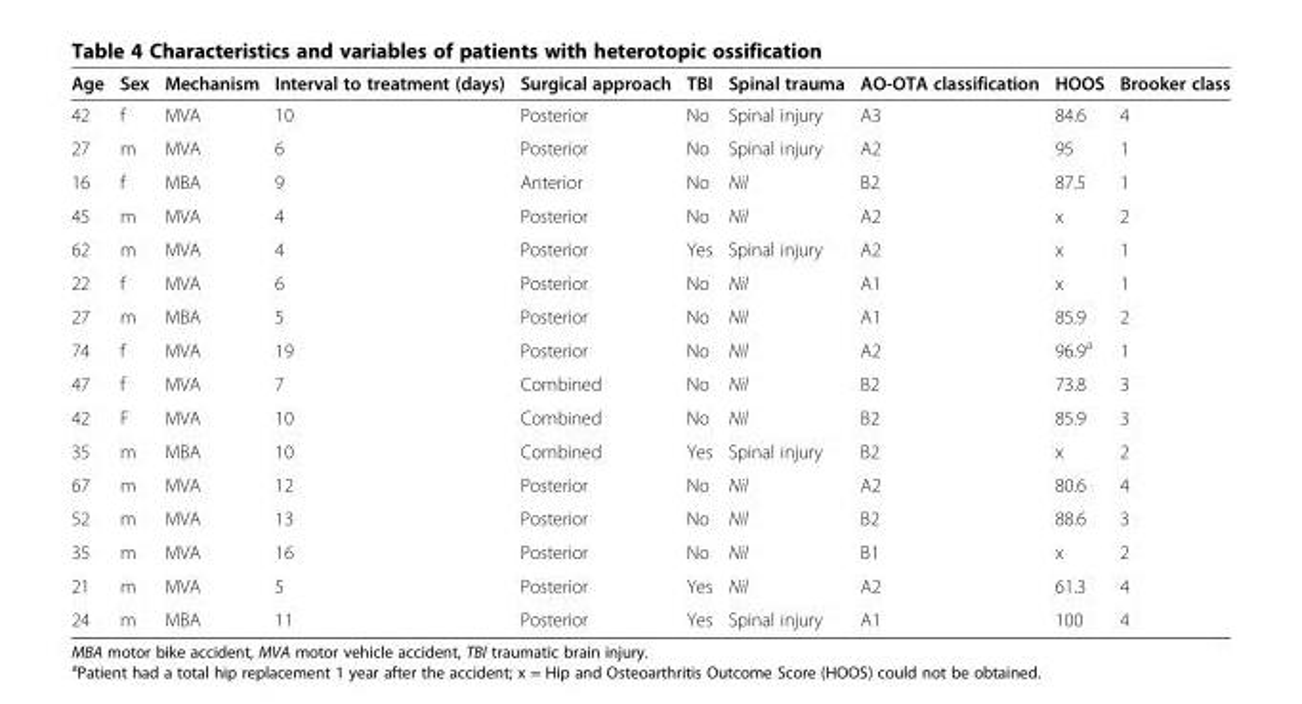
<table><thead><tr><td>Age</td><td>Sex</td><td>Mechanism</td><td>Interval to treatment (days)</td><td>Surgical approach</td><td>TBI</td><td>Spinal trauma</td><td>AO-OTA classification</td><td>HOOS</td><td>Brooker class</td></tr></thead><tbody><tr><td>42</td><td>f</td><td>MVA</td><td>10</td><td>Posterior</td><td>No</td><td>Spinal injury</td><td>A3</td><td>84.6</td><td>4</td></tr><tr><td>27</td><td>m</td><td>MVA</td><td>6</td><td>Posterior</td><td>No</td><td>Spinal injury</td><td>A2</td><td>95</td><td>1</td></tr><tr><td>16</td><td>f</td><td>MBA</td><td>9</td><td>Anterior</td><td>No</td><td>Nil</td><td>B2</td><td>87.5</td><td>1</td></tr><tr><td>45</td><td>m</td><td>MVA</td><td>4</td><td>Posterior</td><td>No</td><td>Nil</td><td>A2</td><td>x</td><td>2</td></tr><tr><td>62</td><td>m</td><td>MVA</td><td>4</td><td>Posterior</td><td>Yes</td><td>Spinal injury</td><td>A2</td><td>x</td><td>1</td></tr><tr><td>22</td><td>f</td><td>MVA</td><td>6</td><td>Posterior</td><td>No</td><td>Nil</td><td>A1</td><td>x</td><td>1</td></tr><tr><td>27</td><td>m</td><td>MBA</td><td>5</td><td>Posterior</td><td>No</td><td>Nil</td><td>A1</td><td>85.9</td><td>2</td></tr><tr><td>74</td><td>f</td><td>MVA</td><td>19</td><td>Posterior</td><td>No</td><td>Nil</td><td>A2</td><td>96.9<sup>a</sup></td><td>1</td></tr><tr><td>47</td><td>f</td><td>MVA</td><td>7</td><td>Combined</td><td>No</td><td>Nil</td><td>B2</td><td>73.8</td><td>3</td></tr><tr><td>42</td><td>F</td><td>MVA</td><td>10</td><td>Combined</td><td>No</td><td>Nil</td><td>B2</td><td>85.9</td><td>3</td></tr><tr><td>35</td><td>m</td><td>MBA</td><td>10</td><td>Combined</td><td>Yes</td><td>Spinal injury</td><td>B2</td><td>x</td><td>2</td></tr><tr><td>67</td><td>m</td><td>MVA</td><td>12</td><td>Posterior</td><td>No</td><td>Nil</td><td>A2</td><td>80.6</td><td>4</td></tr><tr><td>52</td><td>m</td><td>MVA</td><td>13</td><td>Posterior</td><td>No</td><td>Nil</td><td>B2</td><td>88.6</td><td>3</td></tr><tr><td>35</td><td>m</td><td>MVA</td><td>16</td><td>Posterior</td><td>No</td><td>Nil</td><td>B1</td><td>x</td><td>2</td></tr><tr><td>21</td><td>m</td><td>MVA</td><td>5</td><td>Posterior</td><td>Yes</td><td>Nil</td><td>A2</td><td>61.3</td><td>4</td></tr><tr><td>24</td><td>m</td><td>MBA</td><td>11</td><td>Posterior</td><td>Yes</td><td>Spinal injury</td><td>A1</td><td>100</td><td>4</td></tr></tbody></table>